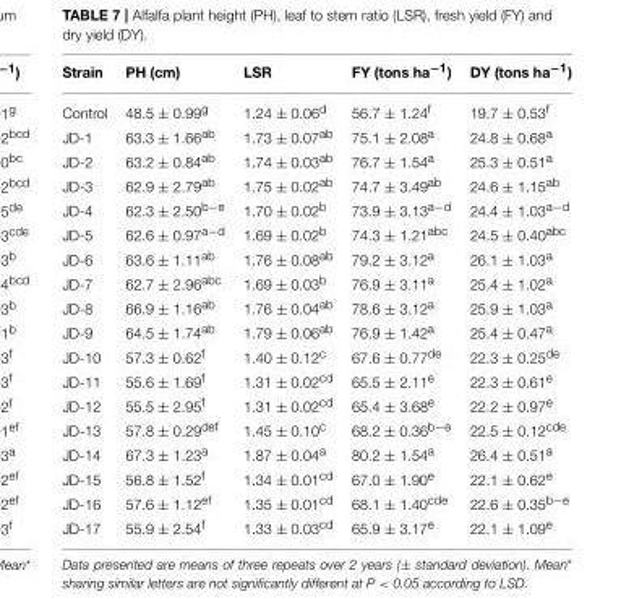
<table><thead><tr><td>Strain</td><td>PH (cm)</td><td>LSR</td><td>FY (tons ha<sup>−1</sup>)</td><td>DY (tons ha<sup>−1</sup>)</td></tr></thead><tbody><tr><td>Control</td><td>48.5 ± 0.99<sup>g</sup></td><td>1.24 ± 0.06<sup>d</sup></td><td>56.7 ± 1.24<sup>f</sup></td><td>19.7 ± 0.53<sup>f</sup></td></tr><tr><td>JD-1</td><td>63.3 ± 1.66<sup>ab</sup></td><td>1.73 ± 0.07<sup>ab</sup></td><td>75.1 ± 2.08<sup>a</sup></td><td>24.8 ± 0.68<sup>a</sup></td></tr><tr><td>JD-2</td><td>63.2 ± 0.84<sup>ab</sup></td><td>1.74 ± 0.03<sup>ab</sup></td><td>76.7 ± 1.54<sup>a</sup></td><td>25.3 ± 0.51<sup>a</sup></td></tr><tr><td>JD-3</td><td>62.9 ± 2.79<sup>ab</sup></td><td>1.75 ± 0.02<sup>ab</sup></td><td>74.7 ± 3.49<sup>ab</sup></td><td>24.6 ± 1.15<sup>ab</sup></td></tr><tr><td>JD-4</td><td>62.3 ± 2.50<sup>b−e</sup></td><td>1.70 ± 0.02<sup>b</sup></td><td>73.9 ± 3.13<sup>a−d</sup></td><td>24.4 ± 1.03<sup>a−d</sup></td></tr><tr><td>JD-5</td><td>62.6 ± 0.97<sup>a−d</sup></td><td>1.69 ± 0.02<sup>b</sup></td><td>74.3 ± 1.21<sup>abc</sup></td><td>24.5 ± 0.40<sup>abc</sup></td></tr><tr><td>JD-6</td><td>63.6 ± 1.11<sup>ab</sup></td><td>1.76 ± 0.08<sup>ab</sup></td><td>79.2 ± 3.12<sup>a</sup></td><td>26.1 ± 1.03<sup>a</sup></td></tr><tr><td>JD-7</td><td>62.7 ± 2.96<sup>abc</sup></td><td>1.69 ± 0.03<sup>b</sup></td><td>76.9 ± 3.11<sup>a</sup></td><td>25.4 ± 1.02<sup>a</sup></td></tr><tr><td>JD-8</td><td>66.9 ± 1.16<sup>ab</sup></td><td>1.76 ± 0.04<sup>ab</sup></td><td>78.6 ± 3.12<sup>a</sup></td><td>25.9 ± 1.03<sup>a</sup></td></tr><tr><td>JD-9</td><td>64.5 ± 1.74<sup>ab</sup></td><td>1.79 ± 0.06<sup>ab</sup></td><td>76.9 ± 1.42<sup>a</sup></td><td>25.4 ± 0.47<sup>a</sup></td></tr><tr><td>JD-10</td><td>57.3 ± 0.62<sup>f</sup></td><td>1.40 ± 0.12<sup>c</sup></td><td>67.6 ± 0.77<sup>de</sup></td><td>22.3 ± 0.25<sup>de</sup></td></tr><tr><td>JD-11</td><td>55.6 ± 1.69<sup>f</sup></td><td>1.31 ± 0.02<sup>cd</sup></td><td>65.5 ± 2.11<sup>e</sup></td><td>22.3 ± 0.61<sup>e</sup></td></tr><tr><td>JD-12</td><td>55.5 ± 2.95<sup>f</sup></td><td>1.31 ± 0.02<sup>cd</sup></td><td>65.4 ± 3.68<sup>e</sup></td><td>22.2 ± 0.97<sup>e</sup></td></tr><tr><td>JD-13</td><td>57.8 ± 0.29<sup>def</sup></td><td>1.45 ± 0.10<sup>c</sup></td><td>68.2 ± 0.36<sup>b−e</sup></td><td>22.5 ± 0.12<sup>cde</sup></td></tr><tr><td>JD-14</td><td>67.3 ± 1.23<sup>a</sup></td><td>1.87 ± 0.04<sup>a</sup></td><td>80.2 ± 1.54<sup>a</sup></td><td>26.4 ± 0.51<sup>a</sup></td></tr><tr><td>JD-15</td><td>56.8 ± 1.52<sup>f</sup></td><td>1.34 ± 0.01<sup>cd</sup></td><td>67.0 ± 1.90<sup>e</sup></td><td>22.1 ± 0.62<sup>e</sup></td></tr><tr><td>JD-16</td><td>57.6 ± 1.12<sup>ef</sup></td><td>1.35 ± 0.01<sup>cd</sup></td><td>68.1 ± 1.40<sup>cde</sup></td><td>22.6 ± 0.35<sup>b−e</sup></td></tr><tr><td>JD-17</td><td>55.9 ± 2.54<sup>f</sup></td><td>1.33 ± 0.03<sup>cd</sup></td><td>65.9 ± 3.17<sup>e</sup></td><td>22.1 ± 1.09<sup>e</sup></td></tr></tbody></table>